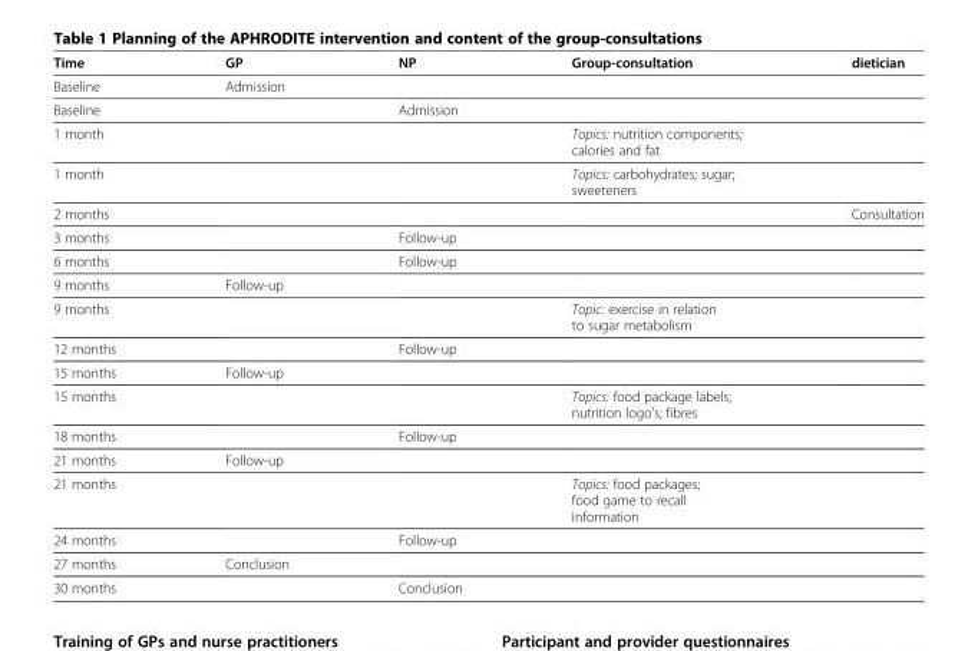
<table><thead><tr><td>Time</td><td>GP</td><td>NP</td><td>Group-consultation</td><td>dietician</td></tr></thead><tbody><tr><td>Baseline</td><td>Admission</td><td></td><td></td><td></td></tr><tr><td>Baseline</td><td></td><td>Admission</td><td></td><td></td></tr><tr><td>1 month</td><td></td><td></td><td>Topics: nutrition components; calories and fat</td><td></td></tr><tr><td>1 month</td><td></td><td></td><td>Topics: carbohydrates; sugar; sweeteners</td><td></td></tr><tr><td>2 months</td><td></td><td></td><td></td><td>Consultation</td></tr><tr><td>3 months</td><td></td><td>Follow-up</td><td></td><td></td></tr><tr><td>6 months</td><td></td><td>Follow-up</td><td></td><td></td></tr><tr><td>9 months</td><td>Follow-up</td><td></td><td></td><td></td></tr><tr><td>9 months</td><td></td><td></td><td>Topic: exercise in relation to sugar metabolism</td><td></td></tr><tr><td>12 months</td><td></td><td>Follow-up</td><td></td><td></td></tr><tr><td>15 months</td><td>Follow-up</td><td></td><td></td><td></td></tr><tr><td>15 months</td><td></td><td></td><td>Topics: food package labels; nutrition logo’s; fibres</td><td></td></tr><tr><td>18 months</td><td></td><td>Follow-up</td><td></td><td></td></tr><tr><td>21 months</td><td>Follow-up</td><td></td><td></td><td></td></tr><tr><td>21 months</td><td></td><td></td><td>Topics: food packages; food game to recall information</td><td></td></tr><tr><td>24 months</td><td></td><td>Follow-up</td><td></td><td></td></tr><tr><td>27 months</td><td>Conclusion</td><td></td><td></td><td></td></tr><tr><td>30 months</td><td></td><td>Conclusion</td><td></td><td></td></tr></tbody></table>